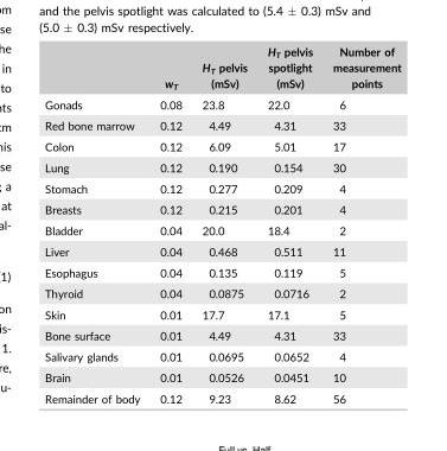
<table><thead><tr><td></td><td>w<sub>T</sub></td><td>H<sub>T</sub> pelvis (mSv)</td><td>H<sub>T</sub> pelvis spotlight (mSv)</td><td>Number of measurement points</td></tr></thead><tbody><tr><td>Gonads</td><td>0.08</td><td>23.8</td><td>22.0</td><td>6</td></tr><tr><td>Red bone marrow</td><td>0.12</td><td>4.49</td><td>4.31</td><td>33</td></tr><tr><td>Colon</td><td>0.12</td><td>6.09</td><td>5.01</td><td>17</td></tr><tr><td>Lung</td><td>0.12</td><td>0.190</td><td>0.154</td><td>30</td></tr><tr><td>Stomach</td><td>0.12</td><td>0.277</td><td>0.209</td><td>4</td></tr><tr><td>Breasts</td><td>0.12</td><td>0.215</td><td>0.201</td><td>4</td></tr><tr><td>Bladder</td><td>0.04</td><td>20.0</td><td>18.4</td><td>2</td></tr><tr><td>Liver</td><td>0.04</td><td>0.468</td><td>0.511</td><td>11</td></tr><tr><td>Esophagus</td><td>0.04</td><td>0.135</td><td>0.119</td><td>5</td></tr><tr><td>Thyroid</td><td>0.04</td><td>0.0875</td><td>0.0716</td><td>2</td></tr><tr><td>Skin</td><td>0.01</td><td>17.7</td><td>17.1</td><td>5</td></tr><tr><td>Bone surface</td><td>0.01</td><td>4.49</td><td>4.31</td><td>33</td></tr><tr><td>Salivary glands</td><td>0.01</td><td>0.0695</td><td>0.0652</td><td>4</td></tr><tr><td>Brain</td><td>0.01</td><td>0.0526</td><td>0.0451</td><td>10</td></tr><tr><td>Remainder of body</td><td>0.12</td><td>9.23</td><td>8.62</td><td>56</td></tr></tbody></table>